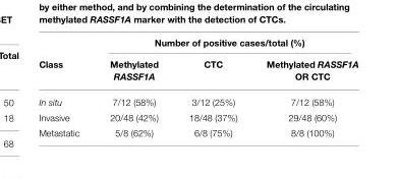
<table><thead><tr><td rowspan="2">Class</td><td colspan="3">Number of positive cases/total (%)</td></tr><tr><td>Methylated RASSF1A</td><td>CTC</td><td>Methylated RASSF1A OR CTC</td></tr></thead><tbody><tr><td>In situ</td><td>7/12 (58%)</td><td>3/12 (25%)</td><td>7/12 (58%)</td></tr><tr><td>Invasive</td><td>20/48 (42%)</td><td>18/48 (37%)</td><td>29/48 (60%)</td></tr><tr><td>Metastatic</td><td>5/8 (62%)</td><td>6/8 (75%)</td><td>8/8 (100%)</td></tr></tbody></table>